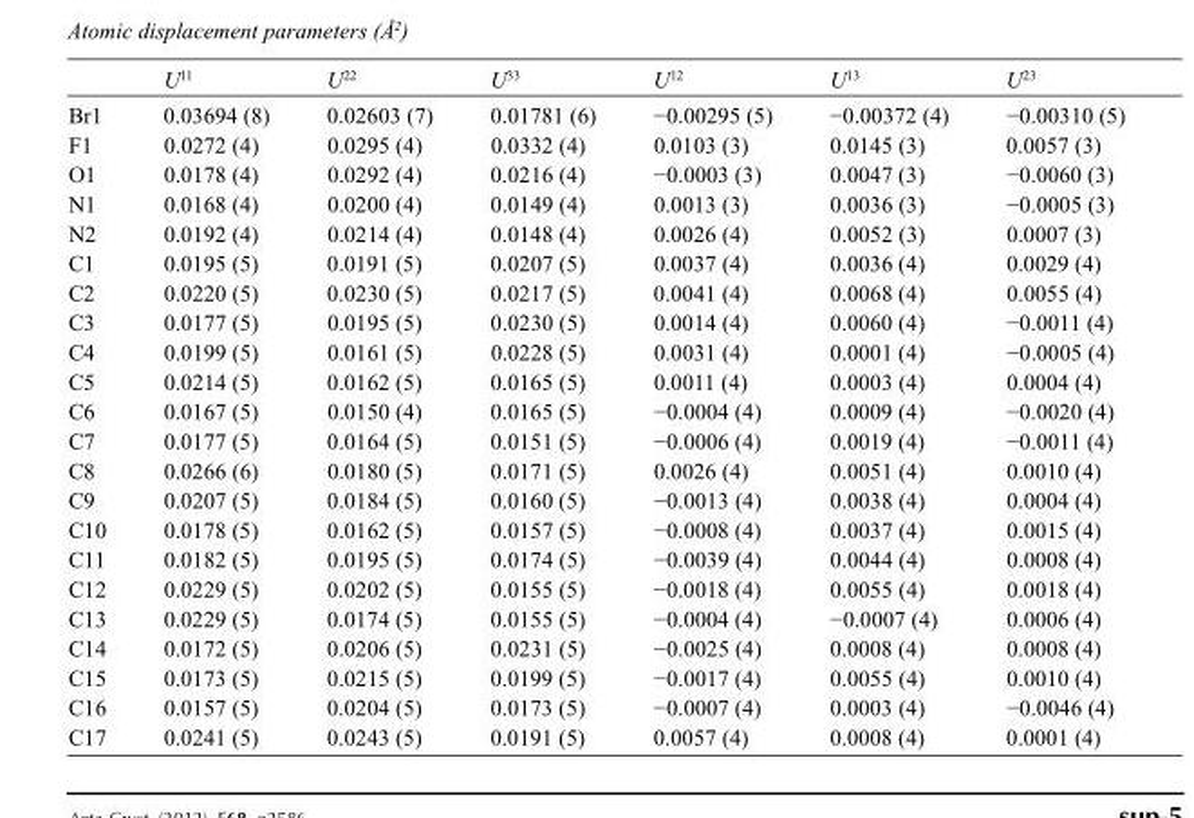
<table><thead><tr><td></td><td>U<sup>11</sup></td><td>U<sup>22</sup></td><td>U<sup>33</sup></td><td>U<sup>12</sup></td><td>U<sup>13</sup></td><td>U<sup>23</sup></td></tr></thead><tbody><tr><td>Br1</td><td>0.03694 (8)</td><td>0.02603 (7)</td><td>0.01781 (6)</td><td>−0.00295 (5)</td><td>−0.00372 (4)</td><td>−0.00310 (5)</td></tr><tr><td>F1</td><td>0.0272 (4)</td><td>0.0295 (4)</td><td>0.0332 (4)</td><td>0.0103 (3)</td><td>0.0145 (3)</td><td>0.0057 (3)</td></tr><tr><td>O1</td><td>0.0178 (4)</td><td>0.0292 (4)</td><td>0.0216 (4)</td><td>−0.0003 (3)</td><td>0.0047 (3)</td><td>−0.0060 (3)</td></tr><tr><td>N1</td><td>0.0168 (4)</td><td>0.0200 (4)</td><td>0.0149 (4)</td><td>0.0013 (3)</td><td>0.0036 (3)</td><td>−0.0005 (3)</td></tr><tr><td>N2</td><td>0.0192 (4)</td><td>0.0214 (4)</td><td>0.0148 (4)</td><td>0.0026 (4)</td><td>0.0052 (3)</td><td>0.0007 (3)</td></tr><tr><td>C1</td><td>0.0195 (5)</td><td>0.0191 (5)</td><td>0.0207 (5)</td><td>0.0037 (4)</td><td>0.0036 (4)</td><td>0.0029 (4)</td></tr><tr><td>C2</td><td>0.0220 (5)</td><td>0.0230 (5)</td><td>0.0217 (5)</td><td>0.0041 (4)</td><td>0.0068 (4)</td><td>0.0055 (4)</td></tr><tr><td>C3</td><td>0.0177 (5)</td><td>0.0195 (5)</td><td>0.0230 (5)</td><td>0.0014 (4)</td><td>0.0060 (4)</td><td>−0.0011 (4)</td></tr><tr><td>C4</td><td>0.0199 (5)</td><td>0.0161 (5)</td><td>0.0228 (5)</td><td>0.0031 (4)</td><td>0.0001 (4)</td><td>−0.0005 (4)</td></tr><tr><td>C5</td><td>0.0214 (5)</td><td>0.0162 (5)</td><td>0.0165 (5)</td><td>0.0011 (4)</td><td>0.0003 (4)</td><td>0.0004 (4)</td></tr><tr><td>C6</td><td>0.0167 (5)</td><td>0.0150 (4)</td><td>0.0165 (5)</td><td>−0.0004 (4)</td><td>0.0009 (4)</td><td>−0.0020 (4)</td></tr><tr><td>C7</td><td>0.0177 (5)</td><td>0.0164 (5)</td><td>0.0151 (5)</td><td>−0.0006 (4)</td><td>0.0019 (4)</td><td>−0.0011 (4)</td></tr><tr><td>C8</td><td>0.0266 (6)</td><td>0.0180 (5)</td><td>0.0171 (5)</td><td>0.0026 (4)</td><td>0.0051 (4)</td><td>0.0010 (4)</td></tr><tr><td>C9</td><td>0.0207 (5)</td><td>0.0184 (5)</td><td>0.0160 (5)</td><td>−0.0013 (4)</td><td>0.0038 (4)</td><td>0.0004 (4)</td></tr><tr><td>C10</td><td>0.0178 (5)</td><td>0.0162 (5)</td><td>0.0157 (5)</td><td>−0.0008 (4)</td><td>0.0037 (4)</td><td>0.0015 (4)</td></tr><tr><td>C11</td><td>0.0182 (5)</td><td>0.0195 (5)</td><td>0.0174 (5)</td><td>−0.0039 (4)</td><td>0.0044 (4)</td><td>0.0008 (4)</td></tr><tr><td>C12</td><td>0.0229 (5)</td><td>0.0202 (5)</td><td>0.0155 (5)</td><td>−0.0018 (4)</td><td>0.0055 (4)</td><td>0.0018 (4)</td></tr><tr><td>C13</td><td>0.0229 (5)</td><td>0.0174 (5)</td><td>0.0155 (5)</td><td>−0.0004 (4)</td><td>−0.0007 (4)</td><td>0.0006 (4)</td></tr><tr><td>C14</td><td>0.0172 (5)</td><td>0.0206 (5)</td><td>0.0231 (5)</td><td>−0.0025 (4)</td><td>0.0008 (4)</td><td>0.0008 (4)</td></tr><tr><td>C15</td><td>0.0173 (5)</td><td>0.0215 (5)</td><td>0.0199 (5)</td><td>−0.0017 (4)</td><td>0.0055 (4)</td><td>0.0010 (4)</td></tr><tr><td>C16</td><td>0.0157 (5)</td><td>0.0204 (5)</td><td>0.0173 (5)</td><td>−0.0007 (4)</td><td>0.0003 (4)</td><td>−0.0046 (4)</td></tr><tr><td>C17</td><td>0.0241 (5)</td><td>0.0243 (5)</td><td>0.0191 (5)</td><td>0.0057 (4)</td><td>0.0008 (4)</td><td>0.0001 (4)</td></tr></tbody></table>